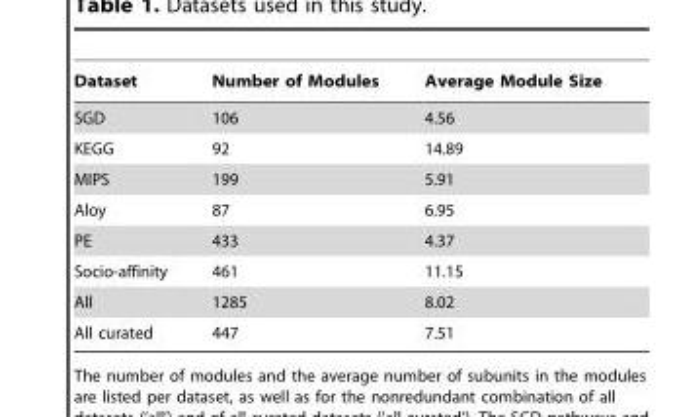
<table><thead><tr><td>Dataset</td><td>Number of Modules</td><td>Average Module Size</td></tr></thead><tbody><tr><td>SGD</td><td>106</td><td>4.56</td></tr><tr><td>KEGG</td><td>92</td><td>14.89</td></tr><tr><td>MIPS</td><td>199</td><td>5.91</td></tr><tr><td>Aloy</td><td>87</td><td>6.95</td></tr><tr><td>PE</td><td>433</td><td>4.37</td></tr><tr><td>Socio-affinity</td><td>461</td><td>11.15</td></tr><tr><td>All</td><td>1285</td><td>8.02</td></tr><tr><td>All curated</td><td>447</td><td>7.51</td></tr></tbody></table>